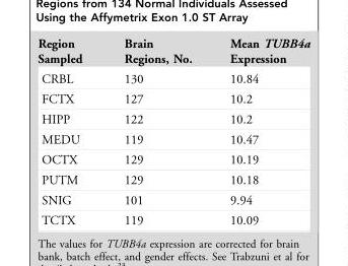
<table><thead><tr><td>Region Sampled</td><td>Brain Regions, No.</td><td>Mean TUBB4a Expression</td></tr></thead><tbody><tr><td>CRBL</td><td>130</td><td>10.84</td></tr><tr><td>FCTX</td><td>127</td><td>10.2</td></tr><tr><td>HIPP</td><td>122</td><td>10.2</td></tr><tr><td>MEDU</td><td>119</td><td>10.47</td></tr><tr><td>OCTX</td><td>129</td><td>10.19</td></tr><tr><td>PUTM</td><td>129</td><td>10.18</td></tr><tr><td>SNIG</td><td>101</td><td>9.94</td></tr><tr><td>TCTX</td><td>119</td><td>10.09</td></tr></tbody></table>